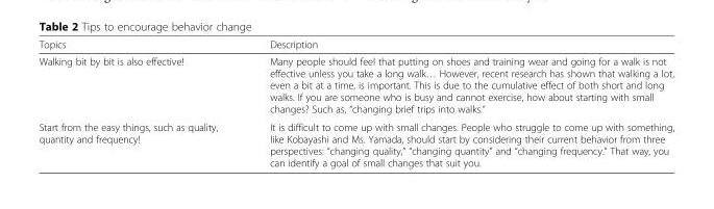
<table><thead><tr><td>Topics</td><td>Description</td></tr></thead><tbody><tr><td>Walking bit by bit is also effective!</td><td>Many people should feel that putting on shoes and training wear and going for a walk is not effective unless you take a long walk… However, recent research has shown that walking a lot, even a bit at a time, is important. This is due to the cumulative effect of both short and long walks. If you are someone who is busy and cannot exercise, how about starting with small changes? Such as, “changing brief trips into walks.”</td></tr><tr><td>Start from the easy things, such as quality, quantity and frequency!</td><td>It is difficult to come up with small changes. People who struggle to come up with something, like Kobayashi and Ms. Yamada, should start by considering their current behavior from three perspectives: “changing quality,” “changing quantity” and “changing frequency.” That way, you can identify a goal of small changes that suit you.</td></tr></tbody></table>